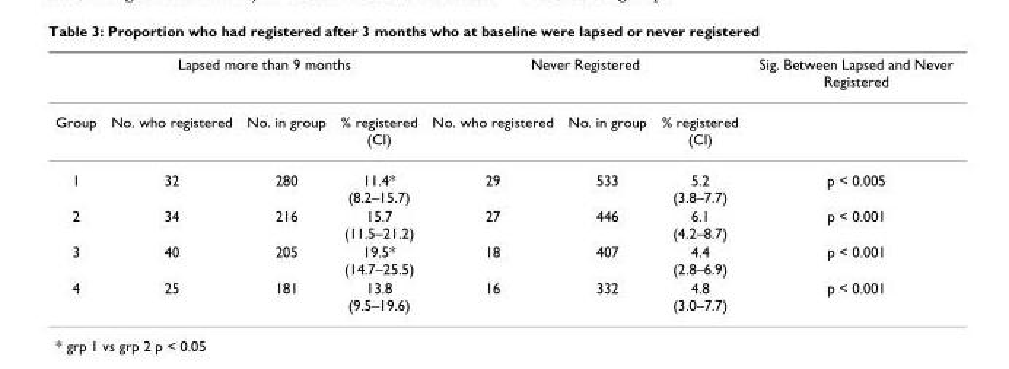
<table><thead><tr><td rowspan="2">Group</td><td colspan="3">Lapsed more than 9 months</td><td colspan="3">Never Registered</td><td rowspan="2">Sig. Between Lapsed and Never Registered</td></tr><tr><td>No. who registered</td><td>No. in group</td><td>% registered (CI)</td><td>No. who registered</td><td>No. in group</td><td>% registered (CI)</td></tr></thead><tbody><tr><td>1</td><td>32</td><td>280</td><td>11.4* (8.2–15.7)</td><td>29</td><td>533</td><td>5.2 (3.8–7.7)</td><td>p &lt; 0.005</td></tr><tr><td>2</td><td>34</td><td>216</td><td>15.7 (11.5–21.2)</td><td>27</td><td>446</td><td>6.1 (4.2–8.7)</td><td>p &lt; 0.001</td></tr><tr><td>3</td><td>40</td><td>205</td><td>19.5* (14.7–25.5)</td><td>18</td><td>407</td><td>4.4 (2.8–6.9)</td><td>p &lt; 0.001</td></tr><tr><td>4</td><td>25</td><td>181</td><td>13.8 (9.5–19.6)</td><td>16</td><td>332</td><td>4.8 (3.0–7.7)</td><td>p &lt; 0.001</td></tr></tbody></table>